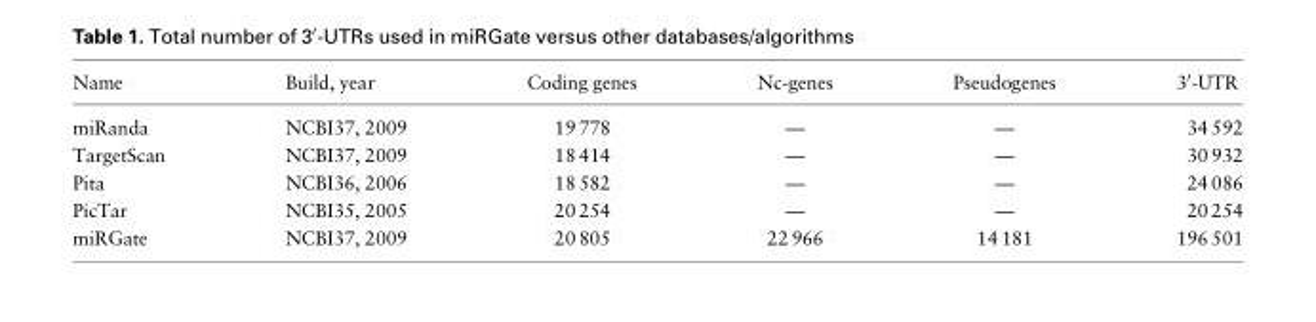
<table><thead><tr><td>Name</td><td>Build, year</td><td>Coding genes</td><td>Nc-genes</td><td>Pseudogenes</td><td>3′-UTR</td></tr></thead><tbody><tr><td>miRanda</td><td>NCBI37, 2009</td><td>19 778</td><td>—</td><td>—</td><td>34 592</td></tr><tr><td>TargetScan</td><td>NCBI37, 2009</td><td>18 414</td><td>—</td><td>—</td><td>30 932</td></tr><tr><td>Pita</td><td>NCBI36, 2006</td><td>18 582</td><td>—</td><td>—</td><td>24 086</td></tr><tr><td>PicTar</td><td>NCBI35, 2005</td><td>20 254</td><td>—</td><td>—</td><td>20 254</td></tr><tr><td>miRGate</td><td>NCBI37, 2009</td><td>20 805</td><td>22 966</td><td>14 181</td><td>196 501</td></tr></tbody></table>